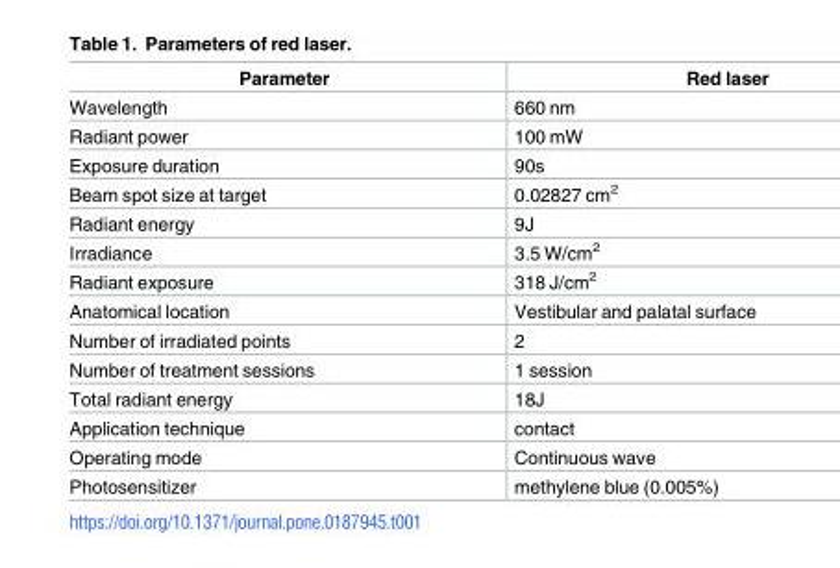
<table><thead><tr><td>Parameter</td><td>Red laser</td></tr></thead><tbody><tr><td>Wavelength</td><td>660 nm</td></tr><tr><td>Radiant power</td><td>100 mW</td></tr><tr><td>Exposure duration</td><td>90s</td></tr><tr><td>Beam spot size at target</td><td>0.02827 cm<sup>2</sup></td></tr><tr><td>Radiant energy</td><td>9J</td></tr><tr><td>Irradiance</td><td>3.5 W/cm<sup>2</sup></td></tr><tr><td>Radiant exposure</td><td>318 J/cm<sup>2</sup></td></tr><tr><td>Anatomical location</td><td>Vestibular and palatal surface</td></tr><tr><td>Number of irradiated points</td><td>2</td></tr><tr><td>Number of treatment sessions</td><td>1 session</td></tr><tr><td>Total radiant energy</td><td>18J</td></tr><tr><td>Application technique</td><td>contact</td></tr><tr><td>Operating mode</td><td>Continuous wave</td></tr><tr><td>Photosensitizer</td><td>methylene blue (0.005%)</td></tr></tbody></table>